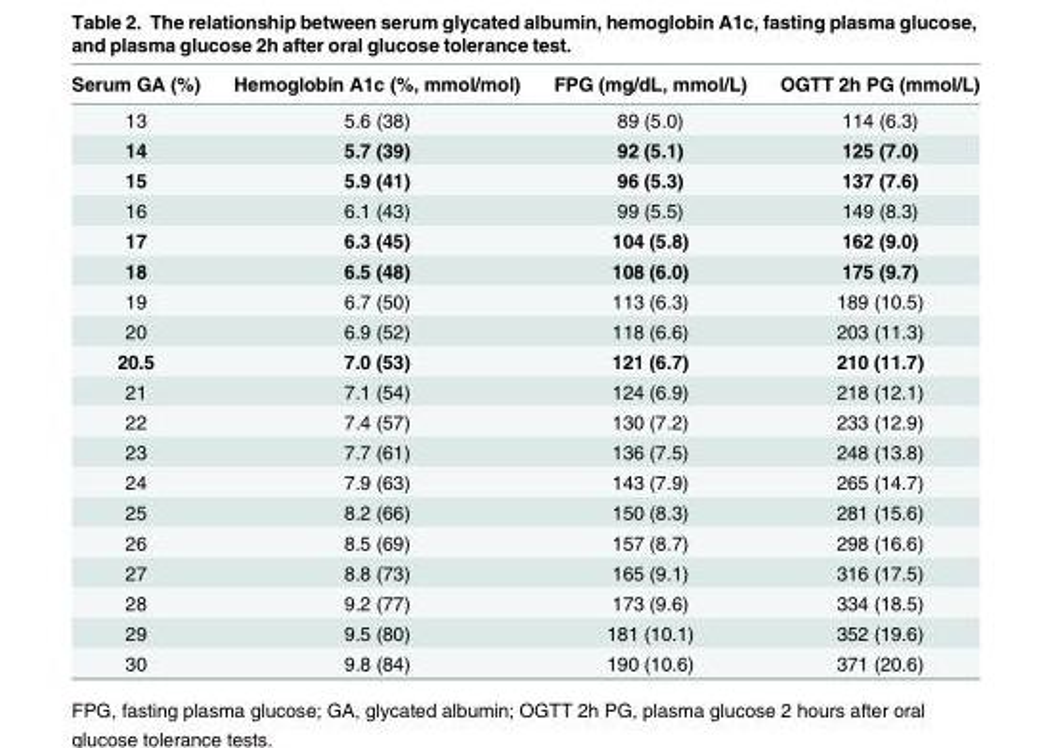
<table><thead><tr><td>Serum GA (%)</td><td>Hemoglobin A1c (%, mmol/mol)</td><td>FPG (mg/dL, mmol/L)</td><td>OGTT 2h PG (mmol/L)</td></tr></thead><tbody><tr><td>13</td><td>5.6 (38)</td><td>89 (5.0)</td><td>114 (6.3)</td></tr><tr><td>14</td><td>5.7 (39)</td><td>92 (5.1)</td><td>125 (7.0)</td></tr><tr><td>15</td><td>5.9 (41)</td><td>96 (5.3)</td><td>137 (7.6)</td></tr><tr><td>16</td><td>6.1 (43)</td><td>99 (5.5)</td><td>149 (8.3)</td></tr><tr><td>17</td><td>6.3 (45)</td><td>104 (5.8)</td><td>162 (9.0)</td></tr><tr><td>18</td><td>6.5 (48)</td><td>108 (6.0)</td><td>175 (9.7)</td></tr><tr><td>19</td><td>6.7 (50)</td><td>113 (6.3)</td><td>189 (10.5)</td></tr><tr><td>20</td><td>6.9 (52)</td><td>118 (6.6)</td><td>203 (11.3)</td></tr><tr><td>20.5</td><td>7.0 (53)</td><td>121 (6.7)</td><td>210 (11.7)</td></tr><tr><td>21</td><td>7.1 (54)</td><td>124 (6.9)</td><td>218 (12.1)</td></tr><tr><td>22</td><td>7.4 (57)</td><td>130 (7.2)</td><td>233 (12.9)</td></tr><tr><td>23</td><td>7.7 (61)</td><td>136 (7.5)</td><td>248 (13.8)</td></tr><tr><td>24</td><td>7.9 (63)</td><td>143 (7.9)</td><td>265 (14.7)</td></tr><tr><td>25</td><td>8.2 (66)</td><td>150 (8.3)</td><td>281 (15.6)</td></tr><tr><td>26</td><td>8.5 (69)</td><td>157 (8.7)</td><td>298 (16.6)</td></tr><tr><td>27</td><td>8.8 (73)</td><td>165 (9.1)</td><td>316 (17.5)</td></tr><tr><td>28</td><td>9.2 (77)</td><td>173 (9.6)</td><td>334 (18.5)</td></tr><tr><td>29</td><td>9.5 (80)</td><td>181 (10.1)</td><td>352 (19.6)</td></tr><tr><td>30</td><td>9.8 (84)</td><td>190 (10.6)</td><td>371 (20.6)</td></tr></tbody></table>